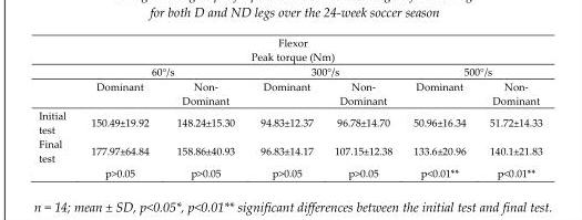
<table><thead><tr><td colspan="7">Flexor Peak torque (Nm)</td></tr><tr><td rowspan="2"></td><td colspan="2">60°/s</td><td colspan="2">300°/s</td><td colspan="2">500°/s</td></tr><tr><td>Dominant</td><td>Non- Dominant</td><td>Dominant</td><td>Non- Dominant</td><td>Dominant</td><td>Non- Dominant</td></tr></thead><tbody><tr><td>Initial test</td><td>150.49±19.92</td><td>148.24±15.30</td><td>94.83±12.37</td><td>96.78±14.70</td><td>50.96±16.34</td><td>51.72±14.33</td></tr><tr><td rowspan="2">Final test</td><td>177.97±64.84</td><td>158.86±40.93</td><td>96.83±14.17</td><td>107.15±12.38</td><td>133.6±20.96</td><td>140.1±21.83</td></tr><tr><td>p&gt;0.05</td><td>p&gt;0.05</td><td>p&gt;0.05</td><td>p&gt;0.05</td><td>p&lt;0.01**</td><td>p&lt;0.01**</td></tr></tbody></table>